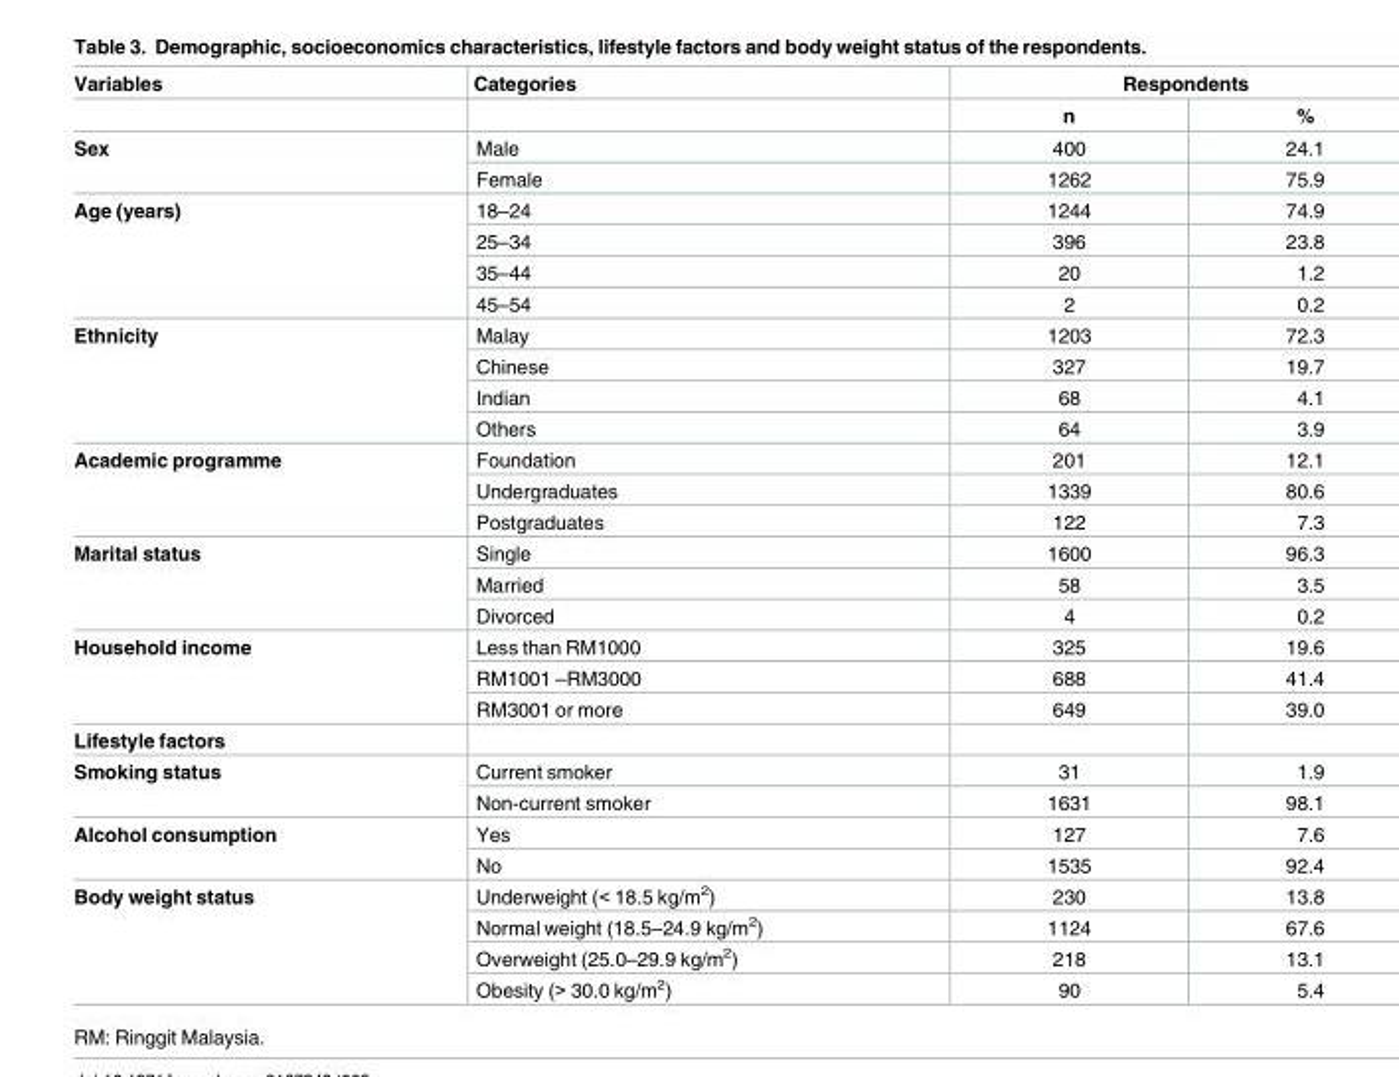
<table><thead><tr><td rowspan="2">Variables</td><td rowspan="2">Categories</td><td colspan="2">Respondents</td></tr><tr><td>n</td><td>%</td></tr></thead><tbody><tr><td rowspan="2">Sex</td><td>Male</td><td>400</td><td>24.1</td></tr><tr><td>Female</td><td>1262</td><td>75.9</td></tr><tr><td rowspan="4">Age (years)</td><td>18–24</td><td>1244</td><td>74.9</td></tr><tr><td>25–34</td><td>396</td><td>23.8</td></tr><tr><td>35–44</td><td>20</td><td>1.2</td></tr><tr><td>45–54</td><td>2</td><td>0.2</td></tr><tr><td rowspan="4">Ethnicity</td><td>Malay</td><td>1203</td><td>72.3</td></tr><tr><td>Chinese</td><td>327</td><td>19.7</td></tr><tr><td>Indian</td><td>68</td><td>4.1</td></tr><tr><td>Others</td><td>64</td><td>3.9</td></tr><tr><td rowspan="3">Academic programme</td><td>Foundation</td><td>201</td><td>12.1</td></tr><tr><td>Undergraduates</td><td>1339</td><td>80.6</td></tr><tr><td>Postgraduates</td><td>122</td><td>7.3</td></tr><tr><td rowspan="3">Marital status</td><td>Single</td><td>1600</td><td>96.3</td></tr><tr><td>Married</td><td>58</td><td>3.5</td></tr><tr><td>Divorced</td><td>4</td><td>0.2</td></tr><tr><td rowspan="3">Household income</td><td>Less than RM1000</td><td>325</td><td>19.6</td></tr><tr><td>RM1001 –RM3000</td><td>688</td><td>41.4</td></tr><tr><td>RM3001 or more</td><td>649</td><td>39.0</td></tr><tr><td colspan="4">Lifestyle factors</td></tr><tr><td rowspan="2">Smoking status</td><td>Current smoker</td><td>31</td><td>1.9</td></tr><tr><td>Non-current smoker</td><td>1631</td><td>98.1</td></tr><tr><td rowspan="2">Alcohol consumption</td><td>Yes</td><td>127</td><td>7.6</td></tr><tr><td>No</td><td>1535</td><td>92.4</td></tr><tr><td rowspan="4">Body weight status</td><td>Underweight (&lt; 18.5 kg/m<sup>2</sup>)</td><td>230</td><td>13.8</td></tr><tr><td>Normal weight (18.5–24.9 kg/m<sup>2</sup>)</td><td>1124</td><td>67.6</td></tr><tr><td>Overweight (25.0–29.9 kg/m<sup>2</sup>)</td><td>218</td><td>13.1</td></tr><tr><td>Obesity (&gt; 30.0 kg/m<sup>2</sup>)</td><td>90</td><td>5.4</td></tr></tbody></table>